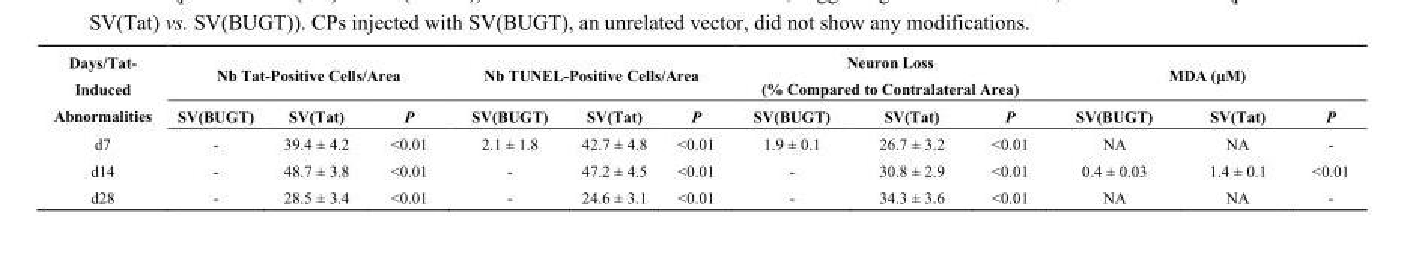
<table><thead><tr><td rowspan="2">Days/Tat- Induced Abnormalities</td><td colspan="3">Nb Tat-Positive Cells/Area</td><td colspan="3">Nb TUNEL-Positive Cells/Area</td><td colspan="3">Neuron Loss (% Compared to Contralateral Area)</td><td colspan="3">MDA (μM)</td></tr><tr><td>SV(BUGT)</td><td>SV(Tat)</td><td>P</td><td>SV(BUGT)</td><td>SV(Tat)</td><td>P</td><td>SV(BUGT)</td><td>SV(Tat)</td><td>P</td><td>SV(BUGT)</td><td>SV(Tat)</td><td>P</td></tr></thead><tbody><tr><td>d7</td><td>-</td><td>39.4 ± 4.2</td><td>&lt;0.01</td><td>2.1 ± 1.8</td><td>42.7 ± 4.8</td><td>&lt;0.01</td><td>1.9 ± 0.1</td><td>26.7 ± 3.2</td><td>&lt;0.01</td><td>NA</td><td>NA</td><td>-</td></tr><tr><td>d14</td><td>-</td><td>48.7 ± 3.8</td><td>&lt;0.01</td><td>-</td><td>47.2 ± 4.5</td><td>&lt;0.01</td><td>-</td><td>30.8 ± 2.9</td><td>&lt;0.01</td><td>0.4 ± 0.03</td><td>1.4 ± 0.1</td><td>&lt;0.01</td></tr><tr><td>d28</td><td>-</td><td>28.5 ± 3.4</td><td>&lt;0.01</td><td>-</td><td>24.6 ± 3.1</td><td>&lt;0.01</td><td>-</td><td>34.3 ± 3.6</td><td>&lt;0.01</td><td>NA</td><td>NA</td><td>-</td></tr></tbody></table>